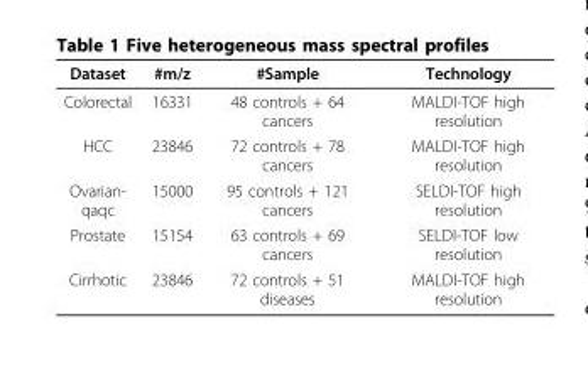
<table><thead><tr><td>Dataset</td><td>#m/z</td><td>#Sample</td><td>Technology</td></tr></thead><tbody><tr><td>Colorectal</td><td>16331</td><td>48 controls + 64 cancers</td><td>MALDI-TOF high resolution</td></tr><tr><td>HCC</td><td>23846</td><td>72 controls + 78 cancers</td><td>MALDI-TOF high resolution</td></tr><tr><td>Ovarian- qaqc</td><td>15000</td><td>95 controls + 121 cancers</td><td>SELDI-TOF high resolution</td></tr><tr><td>Prostate</td><td>15154</td><td>63 controls + 69 cancers</td><td>SELDI-TOF low resolution</td></tr><tr><td>Cirrhotic</td><td>23846</td><td>72 controls + 51 diseases</td><td>MALDI-TOF high resolution</td></tr></tbody></table>